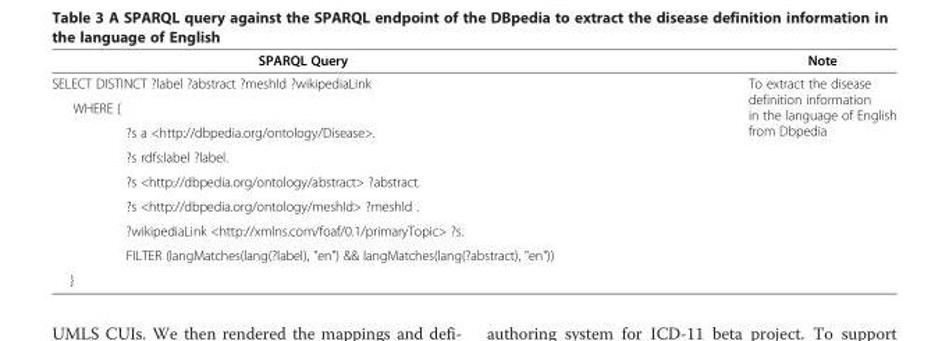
<table><thead><tr><td>SPARQL Query</td><td>Note</td></tr></thead><tbody><tr><td>SELECT DISTINCT ?label ?abstract ?meshId ?wikipediaLink</td><td rowspan="9">To extract the disease definition information in the language of English from Dbpedia</td></tr><tr><td>WHERE {</td></tr><tr><td>?s a &lt;http://dbpedia.org/ontology/Disease&gt;.</td></tr><tr><td>?s rdfs:label ?label.</td></tr><tr><td>?s &lt;http://dbpedia.org/ontology/abstract&gt; ?abstract.</td></tr><tr><td>?s &lt;http://dbpedia.org/ontology/meshId&gt; ?meshId .</td></tr><tr><td>?wikipediaLink &lt;http://xmlns.com/foaf/0.1/primaryTopic&gt; ?s.</td></tr><tr><td>FILTER (langMatches(lang(?label), &quot;en&quot;) &amp;&amp; langMatches(lang(?abstract), &quot;en&quot;))</td></tr><tr><td>}</td></tr></tbody></table>